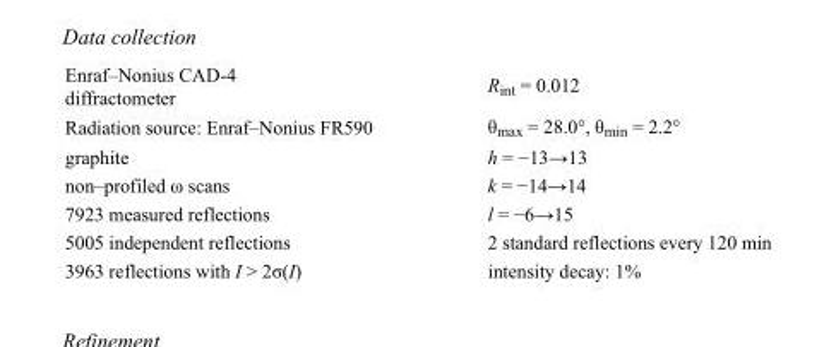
<table><tbody><tr><td>Enraf–Nonius CAD-4 diffractometer</td><td>R<sub>int</sub> = 0.012</td></tr><tr><td>Radiation source: Enraf–Nonius FR590</td><td>θ<sub>max</sub> = 28.0°, θ<sub>min</sub> = 2.2°</td></tr><tr><td>graphite</td><td>h = −13→13</td></tr><tr><td>non–profiled ω scans</td><td>k = −14→14</td></tr><tr><td>7923 measured reflections</td><td>l = −6→15</td></tr><tr><td>5005 independent reflections</td><td>2 standard reflections every 120 min</td></tr><tr><td>3963 reflections with I &gt; 2σ(I)</td><td>intensity decay: 1%</td></tr></tbody></table>